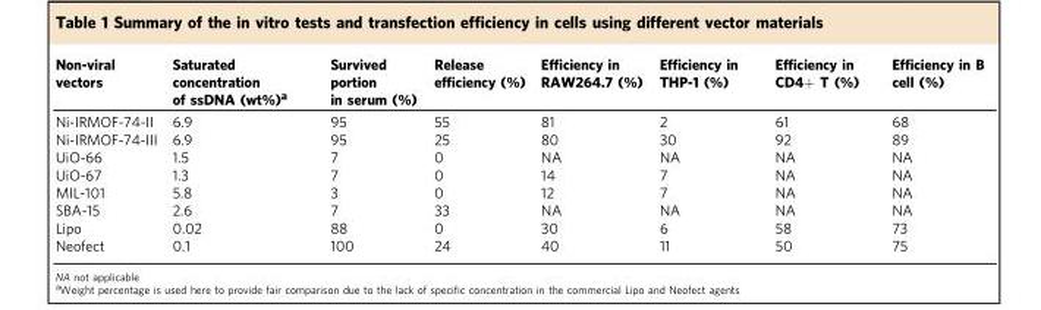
<table><thead><tr><td>Non-viral vectors</td><td>Saturated concentration of ssDNA (wt%)<sup>a</sup></td><td>Survived portion in serum (%)</td><td>Release efficiency (%)</td><td>Efficiency in RAW264.7 (%)</td><td>Efficiency in THP-1 (%)</td><td>Efficiency in CD4+ T (%)</td><td>Efficiency in B cell (%)</td></tr></thead><tbody><tr><td>Ni-IRMOF-74-II</td><td>6.9</td><td>95</td><td>55</td><td>81</td><td>2</td><td>61</td><td>68</td></tr><tr><td>Ni-IRMOF-74-III</td><td>6.9</td><td>95</td><td>25</td><td>80</td><td>30</td><td>92</td><td>89</td></tr><tr><td>UiO-66</td><td>1.5</td><td>7</td><td>0</td><td>NA</td><td>NA</td><td>NA</td><td>NA</td></tr><tr><td>UiO-67</td><td>1.3</td><td>7</td><td>0</td><td>14</td><td>7</td><td>NA</td><td>NA</td></tr><tr><td>MIL-101</td><td>5.8</td><td>3</td><td>0</td><td>12</td><td>7</td><td>NA</td><td>NA</td></tr><tr><td>SBA-15</td><td>2.6</td><td>7</td><td>33</td><td>NA</td><td>NA</td><td>NA</td><td>NA</td></tr><tr><td>Lipo</td><td>0.02</td><td>88</td><td>0</td><td>30</td><td>6</td><td>58</td><td>73</td></tr><tr><td>Neofect</td><td>0.1</td><td>100</td><td>24</td><td>40</td><td>11</td><td>50</td><td>75</td></tr></tbody></table>